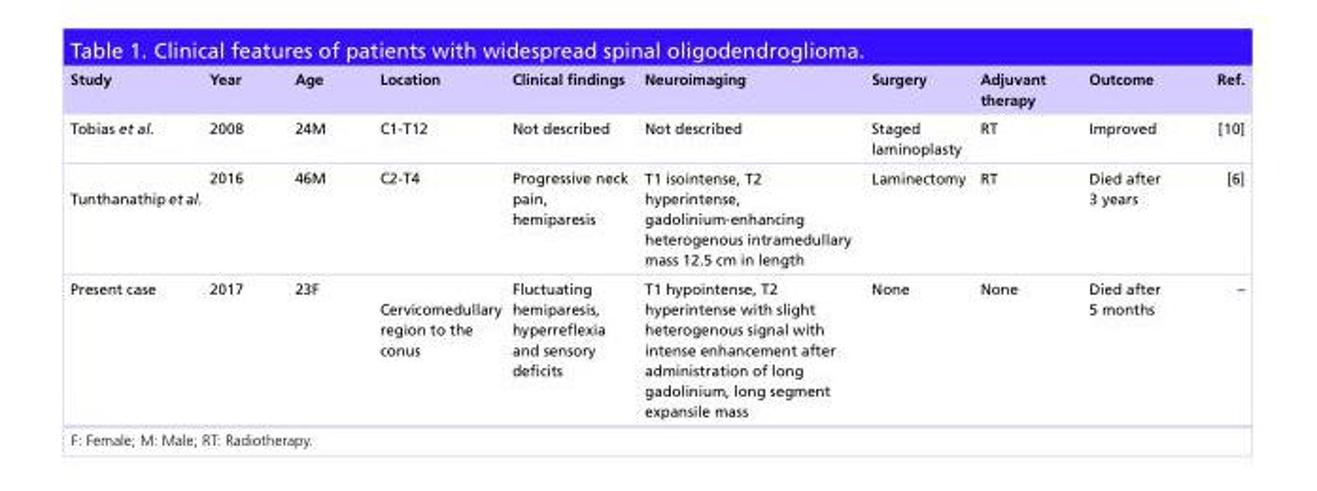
<table><thead><tr><td>Study</td><td>Year</td><td>Age</td><td>Location</td><td>Clinical findings</td><td>Neuroimaging</td><td>Surgery</td><td>Adjuvant therapy</td><td>Outcome</td><td>Ref.</td></tr></thead><tbody><tr><td>Tobias et al.</td><td>2008</td><td>24M</td><td>C1-T12</td><td>Not described</td><td>Not described</td><td>Staged laminoplasty</td><td>RT</td><td>Improved</td><td>[10]</td></tr><tr><td>Tunthanathip et al.</td><td>2016</td><td>46M</td><td>C2-T4</td><td>Progressive neck pain, hemiparesis</td><td>T1 isointense, T2 hyperintense, gadolinium-enhancing heterogenous intramedullary mass 12.5 cm in length</td><td>Laminectomy</td><td>RT</td><td>Died after 3 years</td><td>[6]</td></tr><tr><td>Present case</td><td>2017</td><td>23F</td><td>Cervicomedullary region to the conus</td><td>Fluctuating hemiparesis, hyperreflexia and sensory deficits</td><td>T1 hypointense, T2 hyperintense with slight heterogenous signal with intense enhancement after administration of long gadolinium, long segment expansile mass</td><td>None</td><td>None</td><td>Died after 5 months</td><td>–</td></tr></tbody></table>